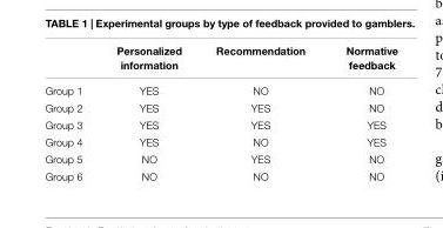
<table><thead><tr><td></td><td>Personalized information</td><td>Recommendation</td><td>Normative feedback</td></tr></thead><tbody><tr><td>Group 1</td><td>YES</td><td>NO</td><td>NO</td></tr><tr><td>Group 2</td><td>YES</td><td>YES</td><td>NO</td></tr><tr><td>Group 3</td><td>YES</td><td>YES</td><td>YES</td></tr><tr><td>Group 4</td><td>YES</td><td>NO</td><td>YES</td></tr><tr><td>Group 5</td><td>NO</td><td>YES</td><td>NO</td></tr><tr><td>Group 6</td><td>NO</td><td>NO</td><td>NO</td></tr></tbody></table>